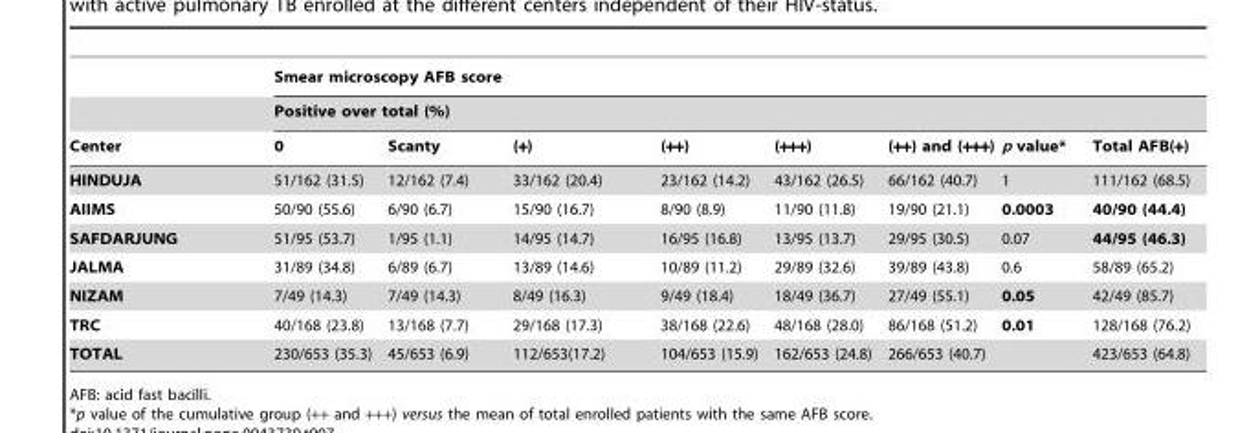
<table><thead><tr><td rowspan="3">Center</td><td rowspan="2" colspan="8">Smear microscopy AFB score Positive over total (%)</td></tr><tr></tr><tr><td>0</td><td>Scanty</td><td>(+)</td><td>(++)</td><td>(+++)</td><td>(++) and (+++)</td><td>p value*</td><td>Total AFB(+)</td></tr></thead><tbody><tr><td>HINDUJA</td><td>51/162 (31.5)</td><td>12/162 (7.4)</td><td>33/162 (20.4)</td><td>23/162 (14.2)</td><td>43/162 (26.5)</td><td>66/162 (40.7)</td><td>1</td><td>111/162 (68.5)</td></tr><tr><td>AIIMS</td><td>50/90 (55.6)</td><td>6/90 (6.7)</td><td>15/90 (16.7)</td><td>8/90 (8.9)</td><td>11/90 (11.8)</td><td>19/90 (21.1)</td><td>0.0003</td><td>40/90 (44.4)</td></tr><tr><td>SAFDARJUNG</td><td>51/95 (53.7)</td><td>1/95 (1.1)</td><td>14/95 (14.7)</td><td>16/95 (16.8)</td><td>13/95 (13.7)</td><td>29/95 (30.5)</td><td>0.07</td><td>44/95 (46.3)</td></tr><tr><td>JALMA</td><td>31/89 (34.8)</td><td>6/89 (6.7)</td><td>13/89 (14.6)</td><td>10/89 (11.2)</td><td>29/89 (32.6)</td><td>39/89 (43.8)</td><td>0.6</td><td>58/89 (65.2)</td></tr><tr><td>NIZAM</td><td>7/49 (14.3)</td><td>7/49 (14.3)</td><td>8/49 (16.3)</td><td>9/49 (18.4)</td><td>18/49 (36.7)</td><td>27/49 (55.1)</td><td>0.05</td><td>42/49 (85.7)</td></tr><tr><td>TRC</td><td>40/168 (23.8)</td><td>13/168 (7.7)</td><td>29/168 (17.3)</td><td>38/168 (22.6)</td><td>48/168 (28.0)</td><td>86/168 (51.2)</td><td>0.01</td><td>128/168 (76.2)</td></tr><tr><td>TOTAL</td><td>230/653 (35.3)</td><td>45/653 (6.9)</td><td>112/653(17.2)</td><td>104/653 (15.9)</td><td>162/653 (24.8)</td><td>266/653 (40.7)</td><td></td><td>423/653 (64.8)</td></tr></tbody></table>